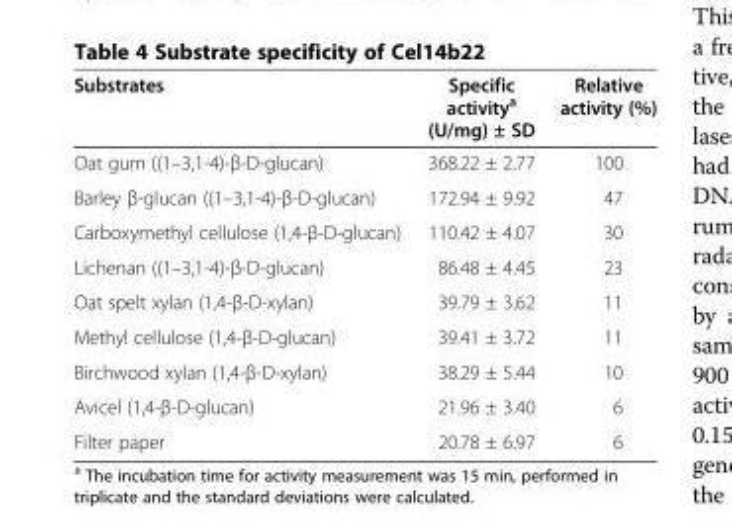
<table><thead><tr><td>Substrates</td><td>Specific activity<sup>a</sup> (U/mg) ± SD</td><td>Relative activity (%)</td></tr></thead><tbody><tr><td>Oat gum ((1–3,1-4)-β-D-glucan)</td><td>368.22 ± 2.77</td><td>100</td></tr><tr><td>Barley β-glucan ((1–3,1-4)-β-D-glucan)</td><td>172.94 ± 9.92</td><td>47</td></tr><tr><td>Carboxymethyl cellulose (1,4-β-D-glucan)</td><td>110.42 ± 4.07</td><td>30</td></tr><tr><td>Lichenan ((1–3,1-4)-β-D-glucan)</td><td>86.48 ± 4.45</td><td>23</td></tr><tr><td>Oat spelt xylan (1,4-β-D-xylan)</td><td>39.79 ± 3.62</td><td>11</td></tr><tr><td>Methyl cellulose (1,4-β-D-glucan)</td><td>39.41 ± 3.72</td><td>11</td></tr><tr><td>Birchwood xylan (1,4-β-D-xylan)</td><td>38.29 ± 5.44</td><td>10</td></tr><tr><td>Avicel (1,4-β-D-glucan)</td><td>21.96 ± 3.40</td><td>6</td></tr><tr><td>Filter paper</td><td>20.78 ± 6.97</td><td>6</td></tr></tbody></table>